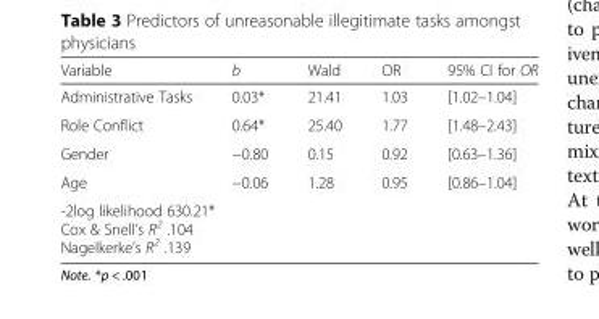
<table><thead><tr><td>Variable</td><td>b</td><td>Wald</td><td>OR</td><td>95% CI for OR</td></tr></thead><tbody><tr><td>Administrative Tasks</td><td>0.03*</td><td>21.41</td><td>1.03</td><td>[1.02–1.04]</td></tr><tr><td>Role Conflict</td><td>0.64*</td><td>25.40</td><td>1.77</td><td>[1.48–2.43]</td></tr><tr><td>Gender</td><td>−0.80</td><td>0.15</td><td>0.92</td><td>[0.63–1.36]</td></tr><tr><td>Age</td><td>−0.06</td><td>1.28</td><td>0.95</td><td>[0.86–1.04]</td></tr><tr><td colspan="5">-2log likelihood 630.21* Cox &amp; Snell’s R<sup>2</sup> .104 Nagelkerke’s R<sup>2</sup> .139</td></tr></tbody></table>